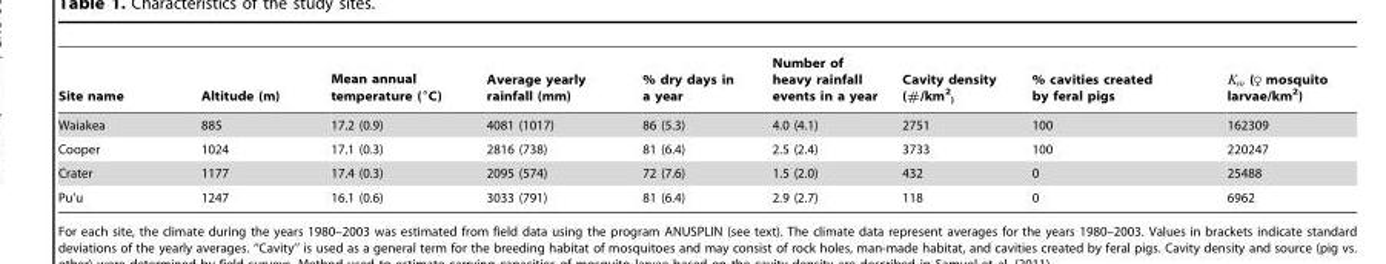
<table><thead><tr><td>Site name</td><td>Altitude (m)</td><td>Mean annual temperature (°C)</td><td>Average yearly rainfall (mm)</td><td>% dry days in a year</td><td>Number of heavy rainfall events in a year</td><td>Cavity density (#/km<sup>2</sup> <sub>)</sub></td><td>% cavities created by feral pigs</td><td>Km (R mosquito larvae/km2)</td></tr></thead><tbody><tr><td>Waiakea</td><td>885</td><td>17.2 (0.9)</td><td>4081 (1017)</td><td>86 (5.3)</td><td>4.0 (4.1)</td><td>2751</td><td>100</td><td>162309</td></tr><tr><td>Cooper</td><td>1024</td><td>17.1 (0.3)</td><td>2816 (738)</td><td>81 (6.4)</td><td>2.5 (2.4)</td><td>3733</td><td>100</td><td>220247</td></tr><tr><td>Crater</td><td>1177</td><td>17.4 (0.3)</td><td>2095 (574)</td><td>72 (7.6)</td><td>1.5 (2.0)</td><td>432</td><td>0</td><td>25488</td></tr><tr><td>Pu’u</td><td>1247</td><td>16.1 (0.6)</td><td>3033 (791)</td><td>81 (6.4)</td><td>2.9 (2.7)</td><td>118</td><td>0</td><td>6962</td></tr></tbody></table>